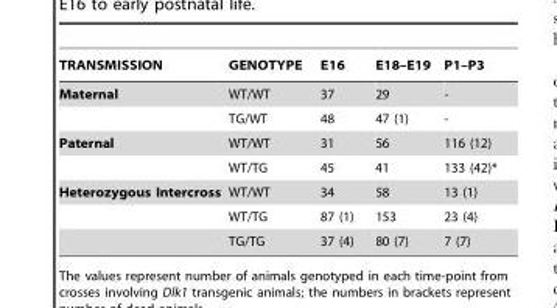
<table><thead><tr><td>TRANSMISSION</td><td>GENOTYPE</td><td>E16</td><td>E18–E19</td><td>P1–P3</td></tr></thead><tbody><tr><td rowspan="2">Maternal</td><td>WT/WT</td><td>37</td><td>29</td><td>-</td></tr><tr><td>TG/WT</td><td>48</td><td>47 (1)</td><td>-</td></tr><tr><td rowspan="2">Paternal</td><td>WT/WT</td><td>31</td><td>56</td><td>116 (12)</td></tr><tr><td>WT/TG</td><td>45</td><td>41</td><td>133 (42)*</td></tr><tr><td rowspan="3">Heterozygous Intercross</td><td>WT/WT</td><td>34</td><td>58</td><td>13 (1)</td></tr><tr><td>WT/TG</td><td>87 (1)</td><td>153</td><td>23 (4)</td></tr><tr><td>TG/TG</td><td>37 (4)</td><td>80 (7)</td><td>7 (7)</td></tr></tbody></table>